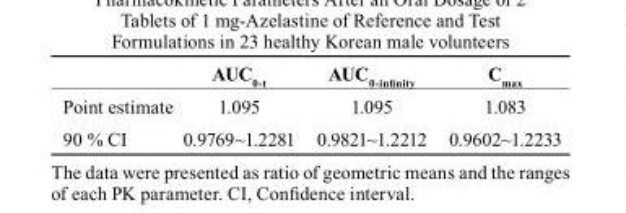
<table><thead><tr><td></td><td>AUc<sub>0-t</sub></td><td>AUc<sub>0-infinity</sub></td><td>c<sub>max</sub></td></tr></thead><tbody><tr><td>Point estimate</td><td>1.095</td><td>1.095</td><td>1.083</td></tr><tr><td>90 % CI</td><td>0.9769~1.2281</td><td>0.9821~1.2212</td><td>0.9602~1.2233</td></tr></tbody></table>